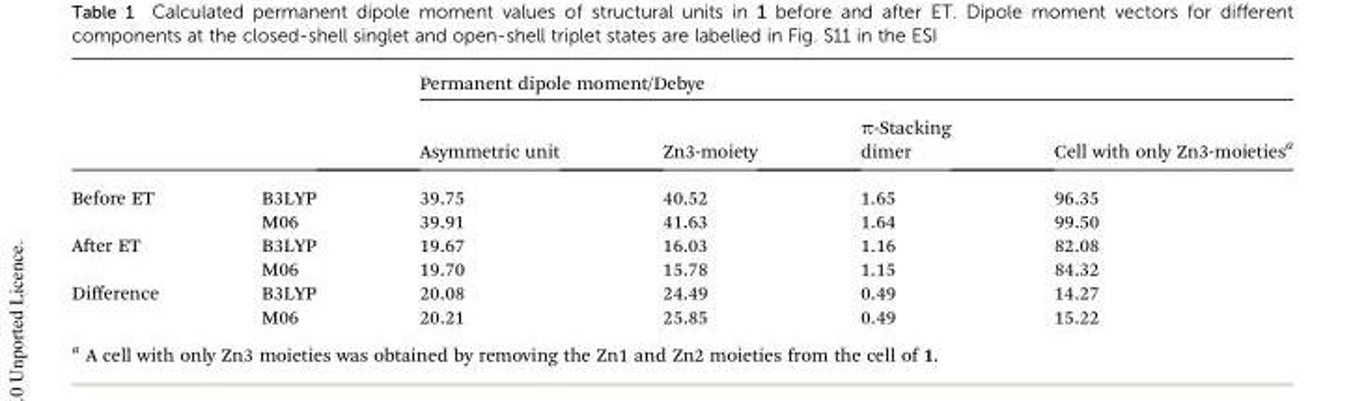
<table><thead><tr><td rowspan="2"></td><td rowspan="2"></td><td colspan="4">Permanent dipole moment/Debye</td></tr><tr><td>Asymmetric unit</td><td>Zn3-moiety</td><td>π-Stacking dimer</td><td>Cell with only Zn3-moieties<sup>a</sup></td></tr></thead><tbody><tr><td rowspan="2">Before ET</td><td>B3LYP</td><td>39.75</td><td>40.52</td><td>1.65</td><td>96.35</td></tr><tr><td>M06</td><td>39.91</td><td>41.63</td><td>1.64</td><td>99.50</td></tr><tr><td rowspan="2">Aer ET</td><td>B3LYP</td><td>19.67</td><td>16.03</td><td>1.16</td><td>82.08</td></tr><tr><td>M06</td><td>19.70</td><td>15.78</td><td>1.15</td><td>84.32</td></tr><tr><td rowspan="2">Difference</td><td>B3LYP</td><td>20.08</td><td>24.49</td><td>0.49</td><td>14.27</td></tr><tr><td>M06</td><td>20.21</td><td>25.85</td><td>0.49</td><td>15.22</td></tr></tbody></table>